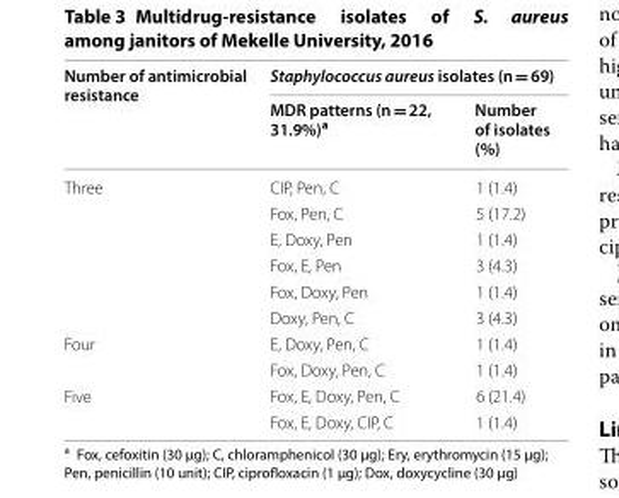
<table><thead><tr><td rowspan="2">Number of antimicrobial resistance</td><td colspan="2">Staphylococcus aureus isolates (n = 69)</td></tr><tr><td>MDR patterns (n = 22, 31.9%)<sup>a</sup></td><td>Number of isolates (%)</td></tr></thead><tbody><tr><td rowspan="6">Three</td><td>CIP, Pen, C</td><td>1 (1.4)</td></tr><tr><td>Fox, Pen, C</td><td>5 (17.2)</td></tr><tr><td>E, Doxy, Pen</td><td>1 (1.4)</td></tr><tr><td>Fox, E, Pen</td><td>3 (4.3)</td></tr><tr><td>Fox, Doxy, Pen</td><td>1 (1.4)</td></tr><tr><td>Doxy, Pen, C</td><td>3 (4.3)</td></tr><tr><td rowspan="2">Four</td><td>E, Doxy, Pen, C</td><td>1 (1.4)</td></tr><tr><td>Fox, Doxy, Pen, C</td><td>1 (1.4)</td></tr><tr><td rowspan="2">Five</td><td>Fox, E, Doxy, Pen, C</td><td>6 (21.4)</td></tr><tr><td>Fox, E, Doxy, CIP, C</td><td>1 (1.4)</td></tr></tbody></table>